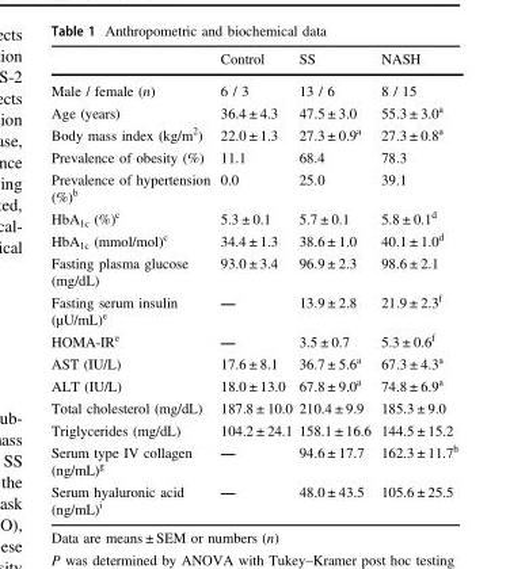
<table><thead><tr><td></td><td>Control</td><td>SS</td><td>NASH</td></tr></thead><tbody><tr><td>Male / female (n)</td><td>6 / 3</td><td>13 / 6</td><td>8 / 15</td></tr><tr><td>Age (years)</td><td>36.4 ± 4.3</td><td>47.5 ± 3.0</td><td>55.3 ± 3.0<sup>a</sup></td></tr><tr><td>Body mass index (kg/m<sup>2</sup>)</td><td>22.0 ± 1.3</td><td>27.3 ± 0.9<sup>a</sup></td><td>27.3 ± 0.8<sup>a</sup></td></tr><tr><td>Prevalence of obesity (%)</td><td>11.1</td><td>68.4</td><td>78.3</td></tr><tr><td>Prevalence of hypertension (%)<sup>b</sup></td><td>0.0</td><td>25.0</td><td>39.1</td></tr><tr><td>HbA<sub>1c</sub> (%)<sup>c</sup></td><td>5.3 ± 0.1</td><td>5.7 ± 0.1</td><td>5.8 ± 0.1<sup>d</sup></td></tr><tr><td>HbA<sub>1c</sub> (mmol/mol)<sup>c</sup></td><td>34.4 ± 1.3</td><td>38.6 ± 1.0</td><td>40.1 ± 1.0<sup>d</sup></td></tr><tr><td>Fasting plasma glucose (mg/dL)</td><td>93.0 ± 3.4</td><td>96.9 ± 2.3</td><td>98.6 ± 2.1</td></tr><tr><td>Fasting serum insulin (µU/mL)<sup>e</sup></td><td>—</td><td>13.9 ± 2.8</td><td>21.9 ± 2.3<sup>f</sup></td></tr><tr><td>HOMA-IR<sup>e</sup></td><td>—</td><td>3.5 ± 0.7</td><td>5.3 ± 0.6<sup>f</sup></td></tr><tr><td>AST (IU/L)</td><td>17.6 ± 8.1</td><td>36.7 ± 5.6<sup>a</sup></td><td>67.3 ± 4.3<sup>a</sup></td></tr><tr><td>ALT (IU/L)</td><td>18.0 ± 13.0</td><td>67.8 ± 9.0<sup>a</sup></td><td>74.8 ± 6.9<sup>a</sup></td></tr><tr><td>Total cholesterol (mg/dL)</td><td>187.8 ± 10.0</td><td>210.4 ± 9.9</td><td>185.3 ± 9.0</td></tr><tr><td>Triglycerides (mg/dL)</td><td>104.2 ± 24.1</td><td>158.1 ± 16.6</td><td>144.5 ± 15.2</td></tr><tr><td>Serum type IV collagen (ng/mL)<sup>g</sup></td><td>—</td><td>94.6 ± 17.7</td><td>162.3 ± 11.7<sup>h</sup></td></tr><tr><td>Serum hyaluronic acid (ng/mL)<sup>i</sup></td><td>—</td><td>48.0 ± 43.5</td><td>105.6 ± 25.5</td></tr></tbody></table>